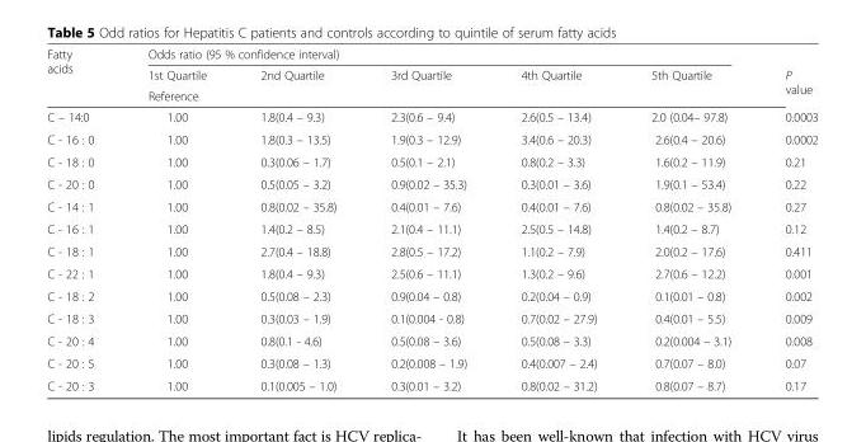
<table><thead><tr><td rowspan="3">Fatty acids</td><td colspan="5">Odds ratio (95 % confidence interval)</td><td rowspan="3">P value</td></tr><tr><td>1st Quartile</td><td>2nd Quartile</td><td>3rd Quartile</td><td>4th Quartile</td><td>5th Quartile</td></tr><tr><td colspan="5">Reference</td></tr></thead><tbody><tr><td>C – 14:0</td><td>1.00</td><td>1.8(0.4 – 9.3)</td><td>2.3(0.6 – 9.4)</td><td>2.6(0.5 – 13.4)</td><td>2.0 (0.04– 97.8)</td><td>0.0003</td></tr><tr><td>C - 16 : 0</td><td>1.00</td><td>1.8(0.3 – 13.5)</td><td>1.9(0.3 – 12.9)</td><td>3.4(0.6 – 20.3)</td><td>2.6(0.4 – 20.6)</td><td>0.0002</td></tr><tr><td>C - 18 : 0</td><td>1.00</td><td>0.3(0.06 – 1.7)</td><td>0.5(0.1 – 2.1)</td><td>0.8(0.2 – 3.3)</td><td>1.6(0.2 – 11.9)</td><td>0.21</td></tr><tr><td>C - 20 : 0</td><td>1.00</td><td>0.5(0.05 – 3.2)</td><td>0.9(0.02 – 35.3)</td><td>0.3(0.01 – 3.6)</td><td>1.9(0.1 – 53.4)</td><td>0.22</td></tr><tr><td>C - 14 : 1</td><td>1.00</td><td>0.8(0.02 – 35.8)</td><td>0.4(0.01 – 7.6)</td><td>0.4(0.01 – 7.6)</td><td>0.8(0.02 – 35.8)</td><td>0.27</td></tr><tr><td>C - 16 : 1</td><td>1.00</td><td>1.4(0.2 – 8.5)</td><td>2.1(0.4 – 11.1)</td><td>2.5(0.5 – 14.8)</td><td>1.4(0.2 – 8.7)</td><td>0.12</td></tr><tr><td>C - 18 : 1</td><td>1.00</td><td>2.7(0.4 – 18.8)</td><td>2.8(0.5 – 17.2)</td><td>1.1(0.2 – 7.9)</td><td>2.0(0.2 – 17.6)</td><td>0.411</td></tr><tr><td>C - 22 : 1</td><td>1.00</td><td>1.8(0.4 – 9.3)</td><td>2.5(0.6 – 11.1)</td><td>1.3(0.2 – 9.6)</td><td>2.7(0.6 – 12.2)</td><td>0.001</td></tr><tr><td>C - 18 : 2</td><td>1.00</td><td>0.5(0.08 – 2.3)</td><td>0.9(0.04 – 0.8)</td><td>0.2(0.04 – 0.9)</td><td>0.1(0.01 – 0.8)</td><td>0.002</td></tr><tr><td>C - 18 : 3</td><td>1.00</td><td>0.3(0.03 – 1.9)</td><td>0.1(0.004 - 0.8)</td><td>0.7(0.02 – 27.9)</td><td>0.4(0.01 – 5.5)</td><td>0.009</td></tr><tr><td>C - 20 : 4</td><td>1.00</td><td>0.8(0.1 - 4.6)</td><td>0.5(0.08 – 3.6)</td><td>0.5(0.08 – 3.3)</td><td>0.2(0.004 – 3.1)</td><td>0.008</td></tr><tr><td>C - 20 : 5</td><td>1.00</td><td>0.3(0.08 – 1.3)</td><td>0.2(0.008 – 1.9)</td><td>0.4(0.007 – 2.4)</td><td>0.7(0.07 – 8.0)</td><td>0.07</td></tr><tr><td>C - 20 : 3</td><td>1.00</td><td>0.1(0.005 – 1.0)</td><td>0.3(0.01 – 3.2)</td><td>0.8(0.02 – 31.2)</td><td>0.8(0.07 – 8.7)</td><td>0.17</td></tr></tbody></table>